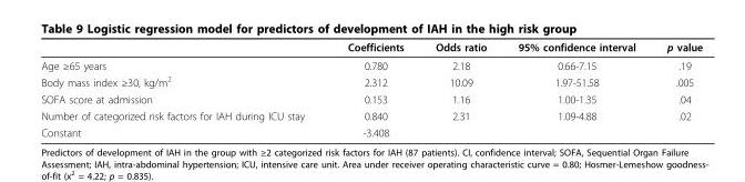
<table><thead><tr><td></td><td>Coefficients</td><td>Odds ratio</td><td>95% confidence interval</td><td>p value</td></tr></thead><tbody><tr><td>Age ≥65 years</td><td>0.780</td><td>2.18</td><td>0.66-7.15</td><td>.19</td></tr><tr><td>Body mass index ≥30, kg/m<sup>2</sup></td><td>2.312</td><td>10.09</td><td>1.97-51.58</td><td>.005</td></tr><tr><td>SOFA score at admission</td><td>0.153</td><td>1.16</td><td>1.00-1.35</td><td>.04</td></tr><tr><td>Number of categorized risk factors for IAH during ICU stay</td><td>0.840</td><td>2.31</td><td>1.09-4.88</td><td>.02</td></tr><tr><td>Constant</td><td>-3.408</td><td></td><td></td><td></td></tr></tbody></table>